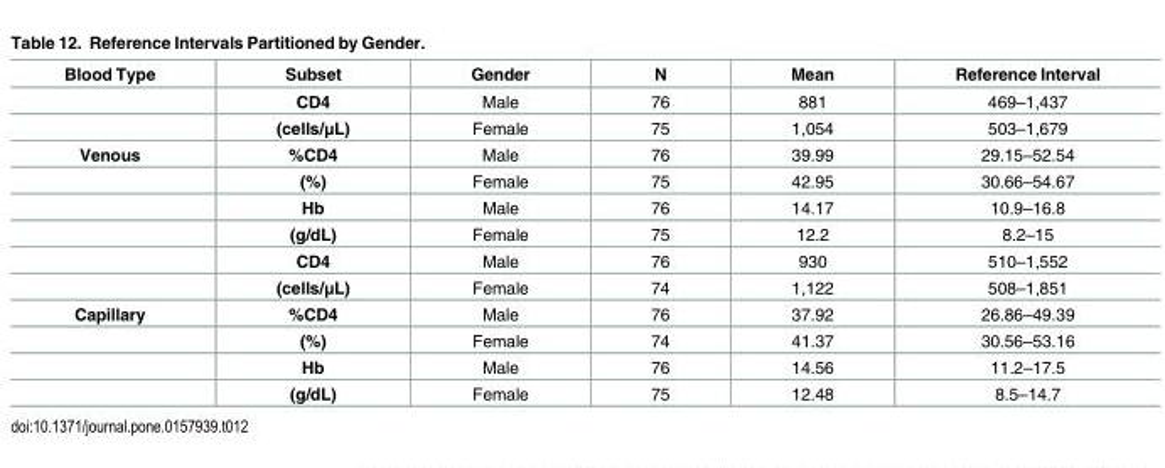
<table><thead><tr><td>Blood Type</td><td>Subset</td><td>Gender</td><td>N</td><td>Mean</td><td>Reference Interval</td></tr></thead><tbody><tr><td></td><td>CD4</td><td>Male</td><td>76</td><td>881</td><td>469–1,437</td></tr><tr><td></td><td>(cells/μL)</td><td>Female</td><td>75</td><td>1,054</td><td>503–1,679</td></tr><tr><td rowspan="6">Venous</td><td>%CD4</td><td>Male</td><td>76</td><td>39.99</td><td>29.15–52.54</td></tr><tr><td>(%)</td><td>Female</td><td>75</td><td>42.95</td><td>30.66–54.67</td></tr><tr><td>Hb</td><td>Male</td><td>76</td><td>14.17</td><td>10.9–16.8</td></tr><tr><td>(g/dL)</td><td>Female</td><td>75</td><td>12.2</td><td>8.2–15</td></tr><tr><td>CD4</td><td>Male</td><td>76</td><td>930</td><td>510–1,552</td></tr><tr><td>(cells/μL)</td><td>Female</td><td>74</td><td>1,122</td><td>508–1,851</td></tr><tr><td rowspan="4">Capillary</td><td>%CD4</td><td>Male</td><td>76</td><td>37.92</td><td>26.86–49.39</td></tr><tr><td>(%)</td><td>Female</td><td>74</td><td>41.37</td><td>30.56–53.16</td></tr><tr><td>Hb</td><td>Male</td><td>76</td><td>14.56</td><td>11.2–17.5</td></tr><tr><td>(g/dL)</td><td>Female</td><td>75</td><td>12.48</td><td>8.5–14.7</td></tr></tbody></table>